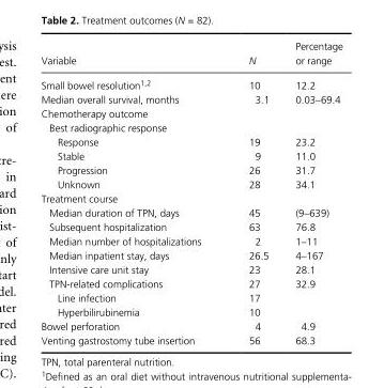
<table><thead><tr><td>Variable</td><td>N</td><td>Percentage or range</td></tr></thead><tbody><tr><td>Small bowel resolution1,2</td><td>10</td><td>12.2</td></tr><tr><td>Median overall survival, months</td><td>3.1</td><td>0.03–69.4</td></tr><tr><td colspan="3">Chemotherapy outcome</td></tr><tr><td colspan="3">Best radiographic response</td></tr><tr><td>Response</td><td>19</td><td>23.2</td></tr><tr><td>Stable</td><td>9</td><td>11.0</td></tr><tr><td>Progression</td><td>26</td><td>31.7</td></tr><tr><td>Unknown</td><td>28</td><td>34.1</td></tr><tr><td colspan="3">Treatment course</td></tr><tr><td>Median duration of TPN, days</td><td>45</td><td>(9–639)</td></tr><tr><td>Subsequent hospitalization</td><td>63</td><td>76.8</td></tr><tr><td>Median number of hospitalizations</td><td>2</td><td>1–11</td></tr><tr><td>Median inpatient stay, days</td><td>26.5</td><td>4–167</td></tr><tr><td>Intensive care unit stay</td><td>23</td><td>28.1</td></tr><tr><td>TPN- related complications</td><td>27</td><td>32.9</td></tr><tr><td>Line infection</td><td>17</td><td></td></tr><tr><td>Hyperbilirubinemia</td><td>10</td><td></td></tr><tr><td>Bowel perforation</td><td>4</td><td>4.9</td></tr><tr><td>Venting gastrostomy tube insertion</td><td>56</td><td>68.3</td></tr></tbody></table>